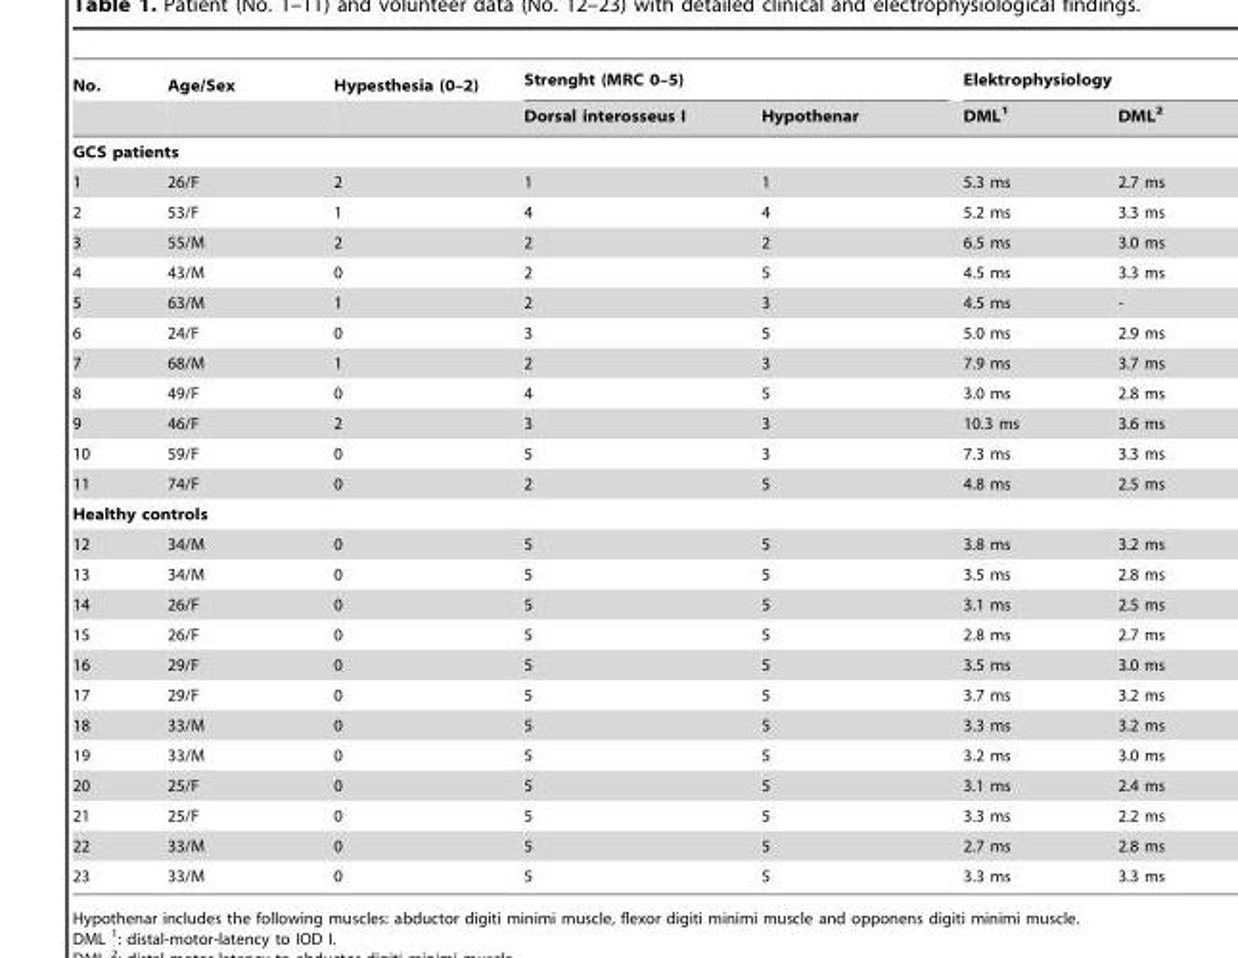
<table><thead><tr><td rowspan="2">No.</td><td rowspan="2">Age/Sex</td><td rowspan="2">Hypesthesia (0–2)</td><td colspan="2">Strenght (MRC 0–5)</td><td colspan="2">Elektrophysiology</td></tr><tr><td>Dorsal interosseus I</td><td>Hypothenar</td><td>DML<sup>1</sup></td><td>DML<sup>2</sup></td></tr></thead><tbody><tr><td colspan="7">GCS patients</td></tr><tr><td>1</td><td>26/F</td><td>2</td><td>1</td><td>1</td><td>5.3 ms</td><td>2.7 ms</td></tr><tr><td>2</td><td>53/F</td><td>1</td><td>4</td><td>4</td><td>5.2 ms</td><td>3.3 ms</td></tr><tr><td>3</td><td>55/M</td><td>2</td><td>2</td><td>2</td><td>6.5 ms</td><td>3.0 ms</td></tr><tr><td>4</td><td>43/M</td><td>0</td><td>2</td><td>5</td><td>4.5 ms</td><td>3.3 ms</td></tr><tr><td>5</td><td>63/M</td><td>1</td><td>2</td><td>3</td><td>4.5 ms</td><td>-</td></tr><tr><td>6</td><td>24/F</td><td>0</td><td>3</td><td>5</td><td>5.0 ms</td><td>2.9 ms</td></tr><tr><td>7</td><td>68/M</td><td>1</td><td>2</td><td>3</td><td>7.9 ms</td><td>3.7 ms</td></tr><tr><td>8</td><td>49/F</td><td>0</td><td>4</td><td>5</td><td>3.0 ms</td><td>2.8 ms</td></tr><tr><td>9</td><td>46/F</td><td>2</td><td>3</td><td>3</td><td>10.3 ms</td><td>3.6 ms</td></tr><tr><td>10</td><td>59/F</td><td>0</td><td>5</td><td>3</td><td>7.3 ms</td><td>3.3 ms</td></tr><tr><td>11</td><td>74/F</td><td>0</td><td>2</td><td>5</td><td>4.8 ms</td><td>2.5 ms</td></tr><tr><td colspan="7">Healthy controls</td></tr><tr><td>12</td><td>34/M</td><td>0</td><td>5</td><td>5</td><td>3.8 ms</td><td>3.2 ms</td></tr><tr><td>13</td><td>34/M</td><td>0</td><td>5</td><td>5</td><td>3.5 ms</td><td>2.8 ms</td></tr><tr><td>14</td><td>26/F</td><td>0</td><td>5</td><td>5</td><td>3.1 ms</td><td>2.5 ms</td></tr><tr><td>15</td><td>26/F</td><td>0</td><td>5</td><td>5</td><td>2.8 ms</td><td>2.7 ms</td></tr><tr><td>16</td><td>29/F</td><td>0</td><td>5</td><td>5</td><td>3.5 ms</td><td>3.0 ms</td></tr><tr><td>17</td><td>29/F</td><td>0</td><td>5</td><td>5</td><td>3.7 ms</td><td>3.2 ms</td></tr><tr><td>18</td><td>33/M</td><td>0</td><td>5</td><td>5</td><td>3.3 ms</td><td>3.2 ms</td></tr><tr><td>19</td><td>33/M</td><td>0</td><td>5</td><td>5</td><td>3.2 ms</td><td>3.0 ms</td></tr><tr><td>20</td><td>25/F</td><td>0</td><td>5</td><td>5</td><td>3.1 ms</td><td>2.4 ms</td></tr><tr><td>21</td><td>25/F</td><td>0</td><td>5</td><td>5</td><td>3.3 ms</td><td>2.2 ms</td></tr><tr><td>22</td><td>33/M</td><td>0</td><td>5</td><td>5</td><td>2.7 ms</td><td>2.8 ms</td></tr><tr><td>23</td><td>33/M</td><td>0</td><td>5</td><td>5</td><td>3.3 ms</td><td>3.3 ms</td></tr></tbody></table>